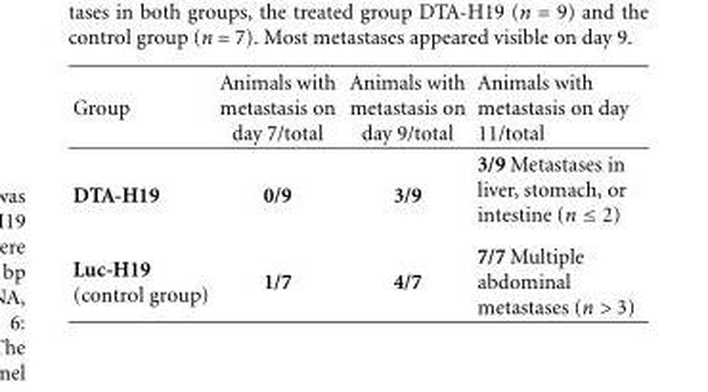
<table><thead><tr><td>Group</td><td>Animals with metastasis on day 7/total</td><td>Animals with metastasis on day 9/total</td><td>Animals with metastasis on day 11/total</td></tr></thead><tbody><tr><td>DTA-H19</td><td>0/9</td><td>3/9</td><td>3/9 Metastases in liver, stomach, or intestine (n ≤ 2)</td></tr><tr><td>Luc-H19 (control group)</td><td>1/7</td><td>4/7</td><td>7/7 Multiple abdominal metastases (n &gt; 3)</td></tr></tbody></table>